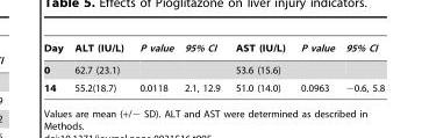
<table><thead><tr><td>Day</td><td>ALT (IU/L)</td><td>P value</td><td>95% CI</td><td>AST (IU/L)</td><td>P value</td><td>95% CI</td></tr></thead><tbody><tr><td>0</td><td>62.7 (23.1)</td><td></td><td></td><td>53.6 (15.6)</td><td></td><td></td></tr><tr><td>14</td><td>55.2(18.7)</td><td>0.0118</td><td>2.1, 12.9</td><td>51.0 (14.0)</td><td>0.0963</td><td>−0.6, 5.8</td></tr></tbody></table>